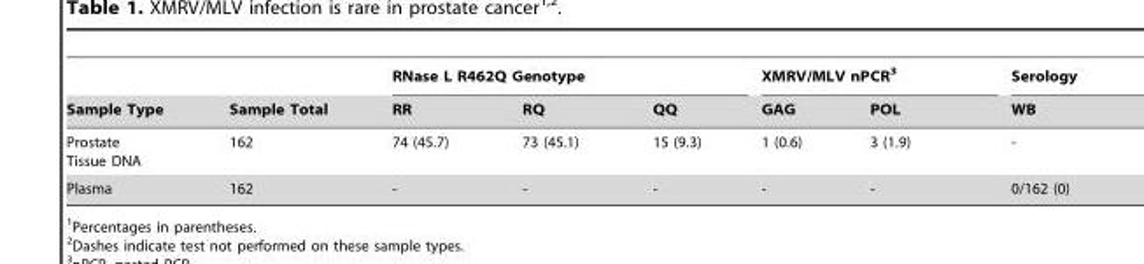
<table><thead><tr><td rowspan="2">Sample Type</td><td rowspan="2">Sample Total</td><td colspan="3">RNase L R462Q Genotype</td><td colspan="2">XMRV/MLV nPCR<sup>3</sup></td><td rowspan="2">Serology WB</td></tr><tr><td>RR</td><td>RQ</td><td>QQ</td><td>GAG</td><td>POL</td></tr></thead><tbody><tr><td>Prostate Tissue DNA</td><td>162</td><td>74 (45.7)</td><td>73 (45.1)</td><td>15 (9.3)</td><td>1 (0.6)</td><td>3 (1.9)</td><td>-</td></tr><tr><td>Plasma</td><td>162</td><td>-</td><td>-</td><td>-</td><td>-</td><td>-</td><td>0/162 (0)</td></tr></tbody></table>